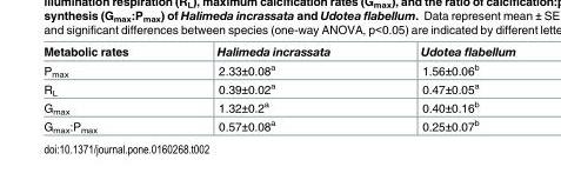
<table><thead><tr><td>Metabolic rates</td><td>Halimeda incrassata</td><td>Udotea flabellum</td></tr></thead><tbody><tr><td>P<sub>max</sub></td><td>2.33±0.08<sup>a</sup></td><td>1.56±0.06<sup>b</sup></td></tr><tr><td>R<sub>L</sub></td><td>0.39±0.02<sup>a</sup></td><td>0.47±0.05<sup>a</sup></td></tr><tr><td>G<sub>max</sub></td><td>1.32±0.2<sup>a</sup></td><td>0.40±0.16<sup>b</sup></td></tr><tr><td>G<sub>max</sub>:P<sub>max</sub></td><td>0.57±0.08<sup>a</sup></td><td>0.25±0.07<sup>b</sup></td></tr></tbody></table>